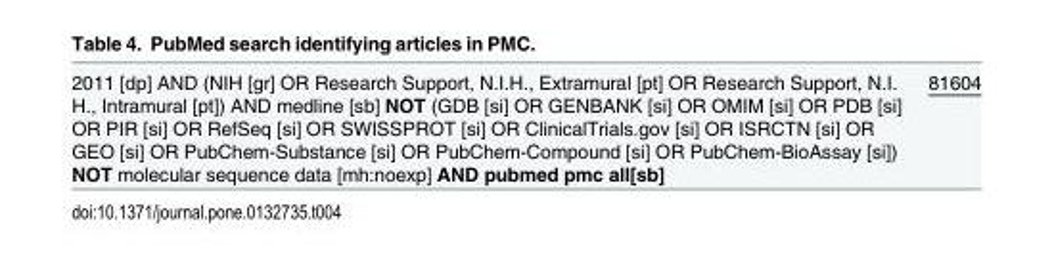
<table><tbody><tr><td>2011 [dp] AND (NIH [gr] OR Research Support, N.I.H., Extramural [pt] OR Research Support, N.I. H., Intramural [pt]) AND medline [sb] NOT (GDB [si] OR GENBANK [si] OR OMIM [si] OR PDB [si] OR PIR [si] OR RefSeq [si] OR SWISSPROT [si] OR ClinicalTrials.gov [si] OR ISRCTN [si] OR GEO [si] OR PubChem-Substance [si] OR PubChem-Compound [si] OR PubChem-BioAssay [si]) NOT molecular sequence data [mh:noexp] AND pubmed pmc all[sb]</td><td>81604</td></tr></tbody></table>